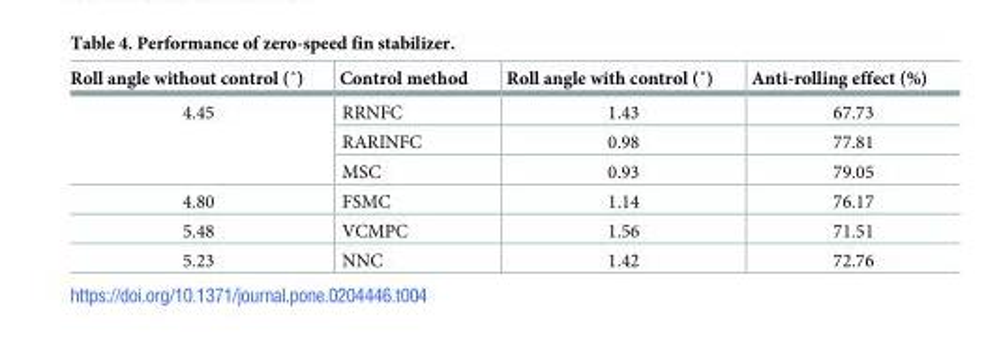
<table><thead><tr><td>Roll angle without control (˚)</td><td>Control method</td><td>Roll angle with control (˚)</td><td>Anti-rolling effect (%)</td></tr></thead><tbody><tr><td rowspan="3">4.45</td><td>RRNFC</td><td>1.43</td><td>67.73</td></tr><tr><td>RARINFC</td><td>0.98</td><td>77.81</td></tr><tr><td>MSC</td><td>0.93</td><td>79.05</td></tr><tr><td>4.80</td><td>FSMC</td><td>1.14</td><td>76.17</td></tr><tr><td>5.48</td><td>VCMPC</td><td>1.56</td><td>71.51</td></tr><tr><td>5.23</td><td>NNC</td><td>1.42</td><td>72.76</td></tr></tbody></table>